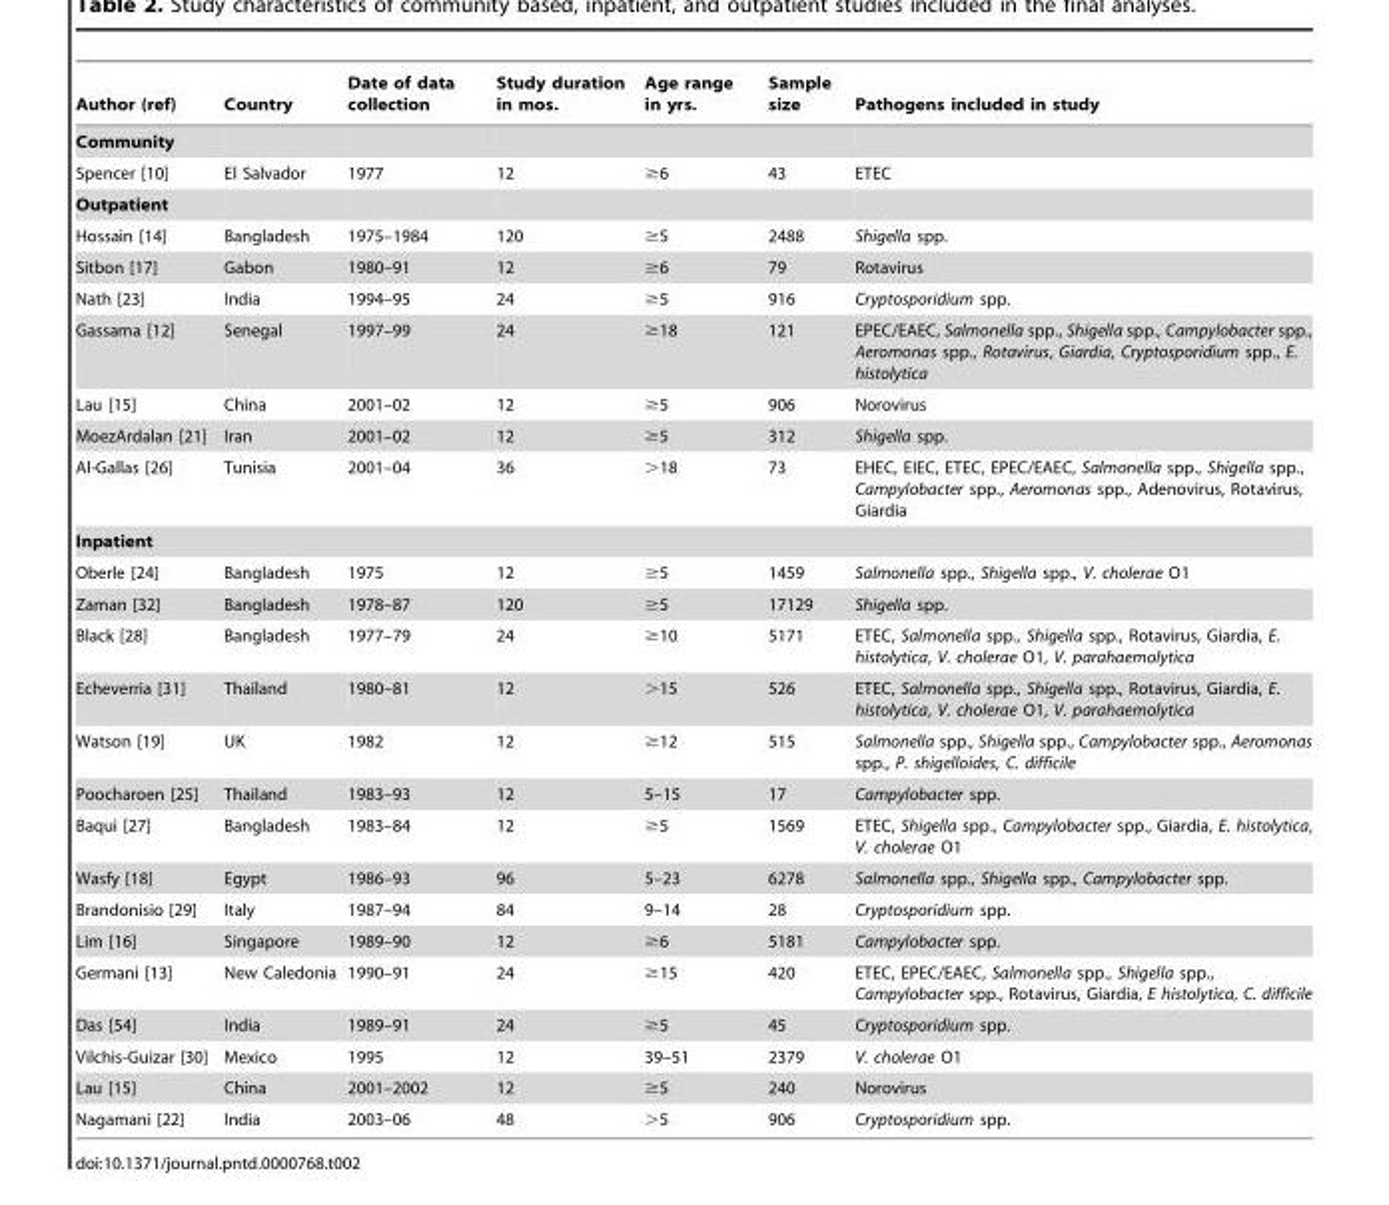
<table><thead><tr><td>Author (ref)</td><td>Country</td><td>Date of data collection</td><td>Study duration in mos.</td><td>Age range in yrs.</td><td>Sample size</td><td>Pathogens included in study</td></tr></thead><tbody><tr><td colspan="7">Community</td></tr><tr><td>Spencer [10]</td><td>El Salvador</td><td>1977</td><td>12</td><td>≥6</td><td>43</td><td>ETEC</td></tr><tr><td colspan="7">Outpatient</td></tr><tr><td>Hossain [14]</td><td>Bangladesh</td><td>1975–1984</td><td>120</td><td>≥5</td><td>2488</td><td>Shigella spp.</td></tr><tr><td>Sitbon [17]</td><td>Gabon</td><td>1980–91</td><td>12</td><td>≥6</td><td>79</td><td>Rotavirus</td></tr><tr><td>Nath [23]</td><td>India</td><td>1994–95</td><td>24</td><td>≥5</td><td>916</td><td>Cryptosporidium spp.</td></tr><tr><td>Gassama [12]</td><td>Senegal</td><td>1997–99</td><td>24</td><td>≥18</td><td>121</td><td>EPEC/EAEC, Salmonella spp., Shigella spp., Campylobacter spp., Aeromonas spp., Rotavirus, Giardia, Cryptosporidium spp., E. histolytica</td></tr><tr><td>Lau [15]</td><td>China</td><td>2001–02</td><td>12</td><td>≥5</td><td>906</td><td>Norovirus</td></tr><tr><td>MoezArdalan [21]</td><td>Iran</td><td>2001–02</td><td>12</td><td>≥5</td><td>312</td><td>Shigella spp.</td></tr><tr><td>Al-Gallas [26]</td><td>Tunisia</td><td>2001–04</td><td>36</td><td>&gt;18</td><td>73</td><td>EHEC, EIEC, ETEC, EPEC/EAEC, Salmonella spp., Shigella spp., Campylobacter spp., Aeromonas spp., Adenovirus, Rotavirus, Giardia</td></tr><tr><td colspan="7">Inpatient</td></tr><tr><td>Oberle [24]</td><td>Bangladesh</td><td>1975</td><td>12</td><td>≥5</td><td>1459</td><td>Salmonella spp., Shigella spp., V. cholerae O1</td></tr><tr><td>Zaman [32]</td><td>Bangladesh</td><td>1978–87</td><td>120</td><td>≥5</td><td>17129</td><td>Shigella spp.</td></tr><tr><td>Black [28]</td><td>Bangladesh</td><td>1977–79</td><td>24</td><td>≥10</td><td>5171</td><td>ETEC, Salmonella spp., Shigella spp., Rotavirus, Giardia, E. histolytica, V. cholerae O1, V. parahaemolytica</td></tr><tr><td>Echeverria [31]</td><td>Thailand</td><td>1980–81</td><td>12</td><td>&gt;15</td><td>526</td><td>ETEC, Salmonella spp., Shigella spp., Rotavirus, Giardia, E. histolytica, V. cholerae O1, V. parahaemolytica</td></tr><tr><td>Watson [19]</td><td>UK</td><td>1982</td><td>12</td><td>≥12</td><td>515</td><td>Salmonella spp., Shigella spp., Campylobacter spp., Aeromonas spp., P. shigelloides, C. difficile</td></tr><tr><td>Poocharoen [25]</td><td>Thailand</td><td>1983–93</td><td>12</td><td>5–15</td><td>17</td><td>Campylobacter spp.</td></tr><tr><td>Baqui [27]</td><td>Bangladesh</td><td>1983–84</td><td>12</td><td>≥5</td><td>1569</td><td>ETEC, Shigella spp., Campylobacter spp., Giardia, E. histolytica, V. cholerae O1</td></tr><tr><td>Wasfy [18]</td><td>Egypt</td><td>1986–93</td><td>96</td><td>5–23</td><td>6278</td><td>Salmonella spp., Shigella spp., Campylobacter spp.</td></tr><tr><td>Brandonisio [29]</td><td>Italy</td><td>1987–94</td><td>84</td><td>9–14</td><td>28</td><td>Cryptosporidium spp.</td></tr><tr><td>Lim [16]</td><td>Singapore</td><td>1989–90</td><td>12</td><td>≥6</td><td>5181</td><td>Campylobacter spp.</td></tr><tr><td>Germani [13]</td><td>New Caledonia</td><td>1990–91</td><td>24</td><td>≥15</td><td>420</td><td>ETEC, EPEC/EAEC, Salmonella spp., Shigella spp., Campylobacter spp., Rotavirus, Giardia, E histolytica, C. difficile</td></tr><tr><td>Das [54]</td><td>India</td><td>1989–91</td><td>24</td><td>≥5</td><td>45</td><td>Cryptosporidium spp.</td></tr><tr><td>Vilchis-Guizar [30]</td><td>Mexico</td><td>1995</td><td>12</td><td>39–51</td><td>2379</td><td>V. cholerae O1</td></tr><tr><td>Lau [15]</td><td>China</td><td>2001–2002</td><td>12</td><td>≥5</td><td>240</td><td>Norovirus</td></tr><tr><td>Nagamani [22]</td><td>India</td><td>2003–06</td><td>48</td><td>&gt;5</td><td>906</td><td>Cryptosporidium spp.</td></tr></tbody></table>